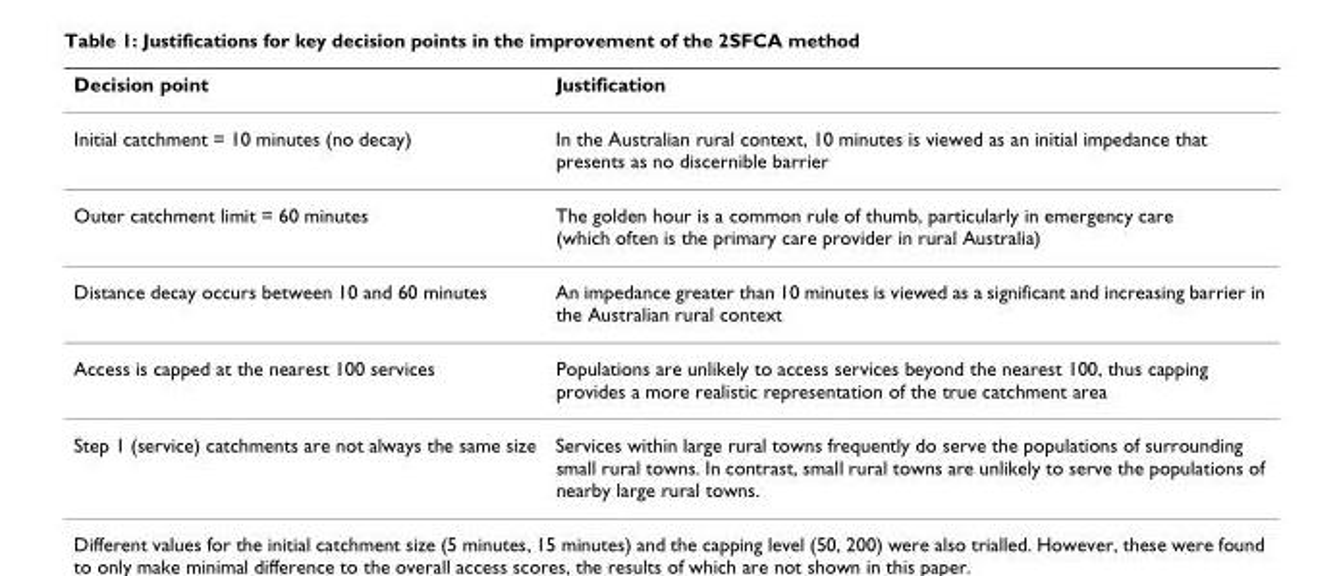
<table><thead><tr><td>Decision point</td><td>Justification</td></tr></thead><tbody><tr><td>Initial catchment = 10 minutes (no decay)</td><td>In the Australian rural context, 10 minutes is viewed as an initial impedance that presents as no discernible barrier</td></tr><tr><td>Outer catchment limit = 60 minutes</td><td>The golden hour is a common rule of thumb, particularly in emergency care (which often is the primary care provider in rural Australia)</td></tr><tr><td>Distance decay occurs between 10 and 60 minutes</td><td>An impedance greater than 10 minutes is viewed as a significant and increasing barrier in the Australian rural context</td></tr><tr><td>Access is capped at the nearest 100 services</td><td>Populations are unlikely to access services beyond the nearest 100, thus capping provides a more realistic representation of the true catchment area</td></tr><tr><td>Step 1 (service) catchments are not always the same size</td><td>Services within large rural towns frequently do serve the populations of surrounding small rural towns. In contrast, small rural towns are unlikely to serve the populations of nearby large rural towns.</td></tr></tbody></table>